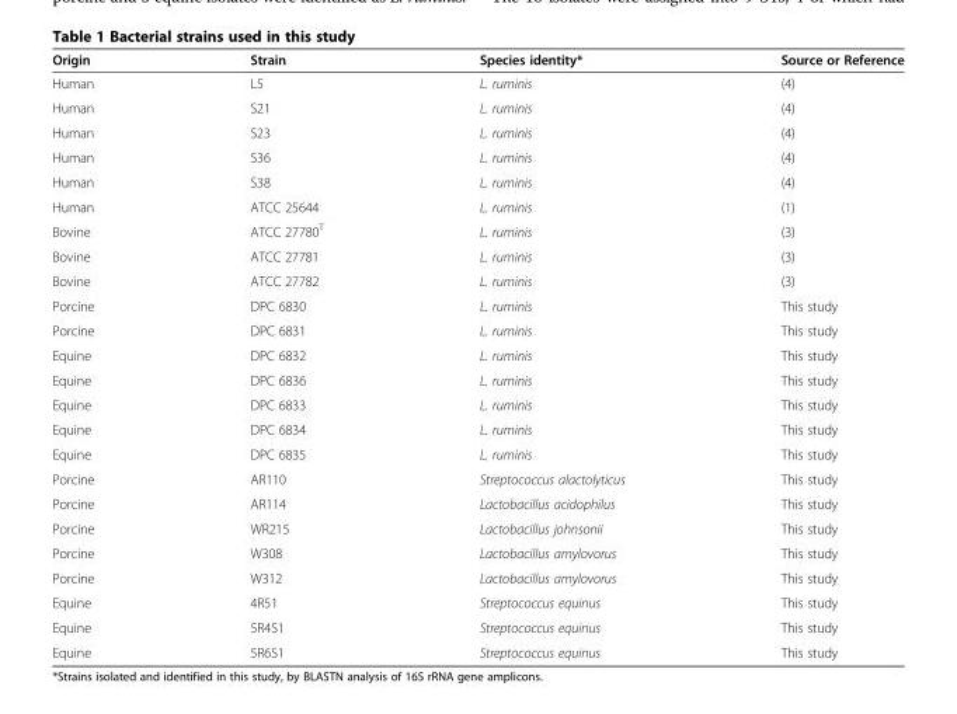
<table><thead><tr><td>Origin</td><td>Strain</td><td>Species identity*</td><td>Source or Reference</td></tr></thead><tbody><tr><td>Human</td><td>L5</td><td>L. ruminis</td><td>(4)</td></tr><tr><td>Human</td><td>S21</td><td>L. ruminis</td><td>(4)</td></tr><tr><td>Human</td><td>S23</td><td>L. ruminis</td><td>(4)</td></tr><tr><td>Human</td><td>S36</td><td>L. ruminis</td><td>(4)</td></tr><tr><td>Human</td><td>S38</td><td>L. ruminis</td><td>(4)</td></tr><tr><td>Human</td><td>ATCC 25644</td><td>L. ruminis</td><td>(1)</td></tr><tr><td>Bovine</td><td>ATCC 27780<sup>T</sup></td><td>L. ruminis</td><td>(3)</td></tr><tr><td>Bovine</td><td>ATCC 27781</td><td>L. ruminis</td><td>(3)</td></tr><tr><td>Bovine</td><td>ATCC 27782</td><td>L. ruminis</td><td>(3)</td></tr><tr><td>Porcine</td><td>DPC 6830</td><td>L. ruminis</td><td>This study</td></tr><tr><td>Porcine</td><td>DPC 6831</td><td>L. ruminis</td><td>This study</td></tr><tr><td>Equine</td><td>DPC 6832</td><td>L. ruminis</td><td>This study</td></tr><tr><td>Equine</td><td>DPC 6836</td><td>L. ruminis</td><td>This study</td></tr><tr><td>Equine</td><td>DPC 6833</td><td>L. ruminis</td><td>This study</td></tr><tr><td>Equine</td><td>DPC 6834</td><td>L. ruminis</td><td>This study</td></tr><tr><td>Equine</td><td>DPC 6835</td><td>L. ruminis</td><td>This study</td></tr><tr><td>Porcine</td><td>AR110</td><td>Streptococcus alactolyticus</td><td>This study</td></tr><tr><td>Porcine</td><td>AR114</td><td>Lactobacillus acidophilus</td><td>This study</td></tr><tr><td>Porcine</td><td>WR215</td><td>Lactobacillus johnsonii</td><td>This study</td></tr><tr><td>Porcine</td><td>W308</td><td>Lactobacillus amylovorus</td><td>This study</td></tr><tr><td>Porcine</td><td>W312</td><td>Lactobacillus amylovorus</td><td>This study</td></tr><tr><td>Equine</td><td>4R51</td><td>Streptococcus equinus</td><td>This study</td></tr><tr><td>Equine</td><td>5R4S1</td><td>Streptococcus equinus</td><td>This study</td></tr><tr><td>Equine</td><td>5R6S1</td><td>Streptococcus equinus</td><td>This study</td></tr></tbody></table>